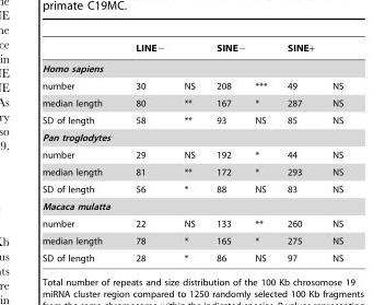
<table><thead><tr><td></td><td colspan="2">LINE−</td><td colspan="2">SINE−</td><td colspan="2">SINE+</td></tr><tr><td colspan="7">Homo sapiens</td></tr><tr><td>number</td><td>30</td><td>NS</td><td>208</td><td>***</td><td>49</td><td>NS</td></tr></thead><tbody><tr><td>median length</td><td>80</td><td>**</td><td>167</td><td>*</td><td>287</td><td>NS</td></tr><tr><td>SD of length</td><td>58</td><td>**</td><td>93</td><td>NS</td><td>85</td><td>NS</td></tr><tr><td colspan="7">Pan troglodytes</td></tr><tr><td>number</td><td>29</td><td>NS</td><td>192</td><td>*</td><td>44</td><td>NS</td></tr><tr><td>median length</td><td>81</td><td>**</td><td>172</td><td>*</td><td>293</td><td>NS</td></tr><tr><td>SD of length</td><td>56</td><td>*</td><td>88</td><td>NS</td><td>83</td><td>NS</td></tr><tr><td colspan="7">Macaca mulatta</td></tr><tr><td>number</td><td>22</td><td>NS</td><td>133</td><td>**</td><td>260</td><td>NS</td></tr><tr><td>median length</td><td>78</td><td>*</td><td>165</td><td>*</td><td>275</td><td>NS</td></tr><tr><td>SD of length</td><td>28</td><td>*</td><td>86</td><td>NS</td><td>97</td><td>NS</td></tr></tbody></table>